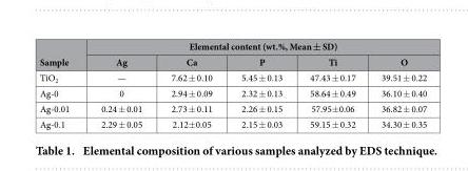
<table><thead><tr><td rowspan="2">Sample</td><td colspan="5">Elemental content (wt.%, Mean ± SD)</td></tr><tr><td>Ag</td><td>Ca</td><td>P</td><td>Ti</td><td>O</td></tr></thead><tbody><tr><td>TiO<sub>2</sub></td><td>—</td><td>7.62 ± 0.10</td><td>5.45 ± 0.13</td><td>47.43 ± 0.17</td><td>39.51 ± 0.22</td></tr><tr><td>Ag-0</td><td>0</td><td>2.94 ± 0.09</td><td>2.32 ± 0.13</td><td>58.64 ± 0.49</td><td>36.10 ± 0.40</td></tr><tr><td>Ag-0.01</td><td>0.24 ± 0.01</td><td>2.73 ± 0.11</td><td>2.26 ± 0.15</td><td>57.95± 0.06</td><td>36.82 ± 0.07</td></tr><tr><td>Ag-0.1</td><td>2.29 ± 0.05</td><td>2.12± 0.05</td><td>2.15 ± 0.03</td><td>59.15 ± 0.32</td><td>34.30 ± 0.35</td></tr></tbody></table>